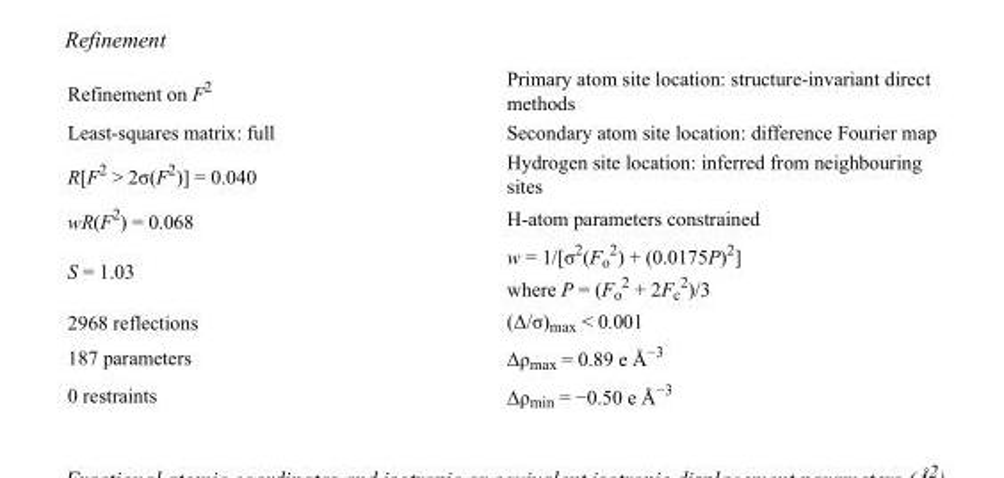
<table><tbody><tr><td>Refinement on F<sup>2</sup></td><td>Primary atom site location: structure-invariant direct methods</td></tr><tr><td>Least-squares matrix: full</td><td>Secondary atom site location: difference Fourier map</td></tr><tr><td>R[F<sup>2</sup> &gt; 2σ(F<sup>2</sup>)] = 0.040</td><td>Hydrogen site location: inferred from neighbouring sites</td></tr><tr><td>wR(F<sup>2</sup>) = 0.068</td><td>H-atom parameters constrained</td></tr><tr><td>S = 1.03</td><td>w = 1/[σ<sup>2</sup>(F<sub>o</sub> <sup>2</sup>) + (0.0175P)<sup>2</sup>] where P = (F<sub>o</sub> <sup>2</sup> + 2F<sub>c</sub> <sup>2</sup>)/3</td></tr><tr><td>2968 reflections</td><td>(Δ/σ)<sub>max</sub> &lt; 0.001</td></tr><tr><td>187 parameters</td><td>Δρ<sub>max</sub> = 0.89 e Å<sup>−3</sup></td></tr><tr><td>0 restraints</td><td>Δρ<sub>min</sub> = −0.50 e Å<sup>−3</sup></td></tr></tbody></table>